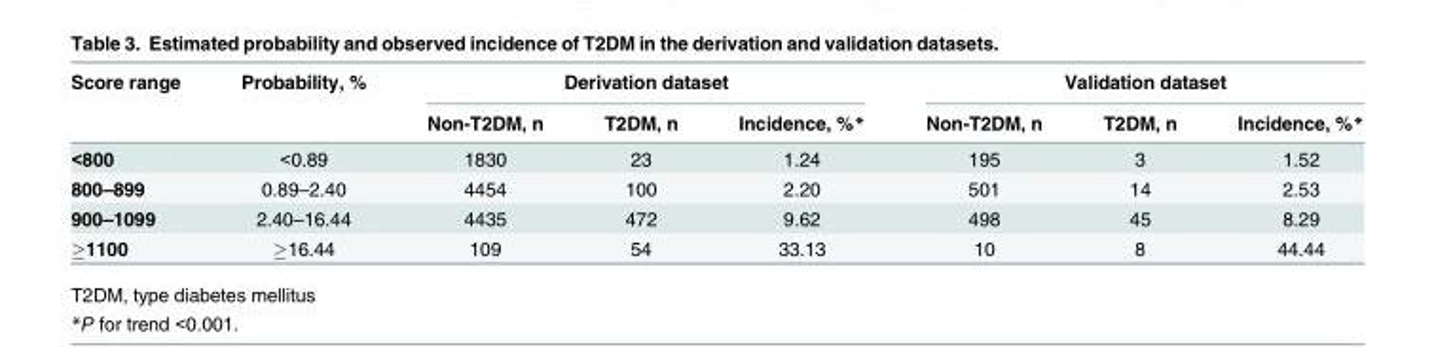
<table><thead><tr><td rowspan="2">Score range</td><td rowspan="2">Probability, %</td><td colspan="3">Derivation dataset</td><td colspan="3">Validation dataset</td></tr><tr><td>Non-T2DM, n</td><td>T2DM, n</td><td>Incidence, %*</td><td>Non-T2DM, n</td><td>T2DM, n</td><td>Incidence, %*</td></tr></thead><tbody><tr><td>&lt;800</td><td>&lt;0.89</td><td>1830</td><td>23</td><td>1.24</td><td>195</td><td>3</td><td>1.52</td></tr><tr><td>800–899</td><td>0.89–2.40</td><td>4454</td><td>100</td><td>2.20</td><td>501</td><td>14</td><td>2.53</td></tr><tr><td>900–1099</td><td>2.40–16.44</td><td>4435</td><td>472</td><td>9.62</td><td>498</td><td>45</td><td>8.29</td></tr><tr><td>≥1100</td><td>≥16.44</td><td>109</td><td>54</td><td>33.13</td><td>10</td><td>8</td><td>44.44</td></tr></tbody></table>